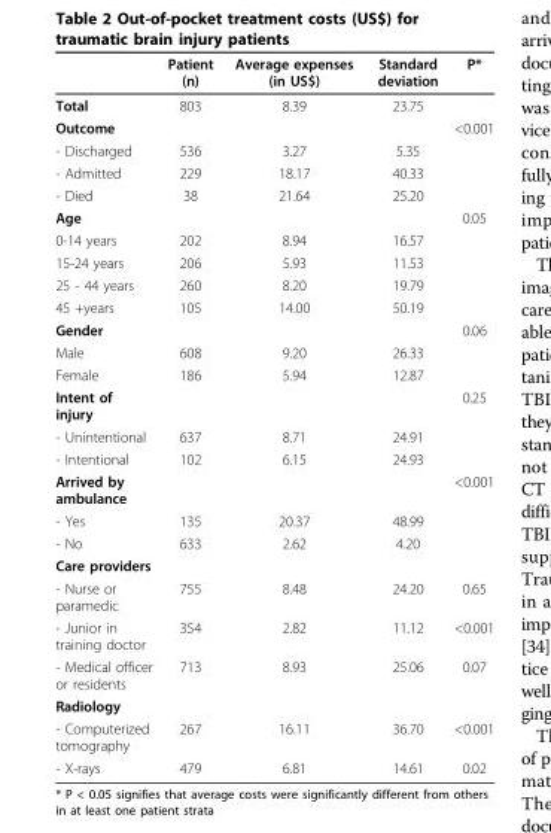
<table><thead><tr><td></td><td>Patient (n)</td><td>Average expenses (in US$)</td><td>Standard deviation</td><td>P*</td></tr></thead><tbody><tr><td>Total</td><td>803</td><td>8.39</td><td>23.75</td><td></td></tr><tr><td>Outcome</td><td></td><td></td><td></td><td>&lt;0.001</td></tr><tr><td>- Discharged</td><td>536</td><td>3.27</td><td>5.35</td><td></td></tr><tr><td>- Admitted</td><td>229</td><td>18.17</td><td>40.33</td><td></td></tr><tr><td>- Died</td><td>38</td><td>21.64</td><td>25.20</td><td></td></tr><tr><td>Age</td><td></td><td></td><td></td><td>0.05</td></tr><tr><td>0-14 years</td><td>202</td><td>8.94</td><td>16.57</td><td></td></tr><tr><td>15-24 years</td><td>206</td><td>5.93</td><td>11.53</td><td></td></tr><tr><td>25 - 44 years</td><td>260</td><td>8.20</td><td>19.79</td><td></td></tr><tr><td>45 +years</td><td>105</td><td>14.00</td><td>50.19</td><td></td></tr><tr><td>Gender</td><td></td><td></td><td></td><td>0.06</td></tr><tr><td>Male</td><td>608</td><td>9.20</td><td>26.33</td><td></td></tr><tr><td>Female</td><td>186</td><td>5.94</td><td>12.87</td><td></td></tr><tr><td>Intent of injury</td><td></td><td></td><td></td><td>0.25</td></tr><tr><td>- Unintentional</td><td>637</td><td>8.71</td><td>24.91</td><td></td></tr><tr><td>- Intentional</td><td>102</td><td>6.15</td><td>24.93</td><td></td></tr><tr><td>Arrived by ambulance</td><td></td><td></td><td></td><td>&lt;0.001</td></tr><tr><td>- Yes</td><td>135</td><td>20.37</td><td>48.99</td><td></td></tr><tr><td>- No</td><td>633</td><td>2.62</td><td>4.20</td><td></td></tr><tr><td colspan="5">Care providers</td></tr><tr><td>- Nurse or paramedic</td><td>755</td><td>8.48</td><td>24.20</td><td>0.65</td></tr><tr><td>- Junior in training doctor</td><td>354</td><td>2.82</td><td>11.12</td><td>&lt;0.001</td></tr><tr><td>- Medical officer or residents</td><td>713</td><td>8.93</td><td>25.06</td><td>0.07</td></tr><tr><td colspan="5">Radiology</td></tr><tr><td>- Computerized tomography</td><td>267</td><td>16.11</td><td>36.70</td><td>&lt;0.001</td></tr><tr><td>- X-rays</td><td>479</td><td>6.81</td><td>14.61</td><td>0.02</td></tr></tbody></table>